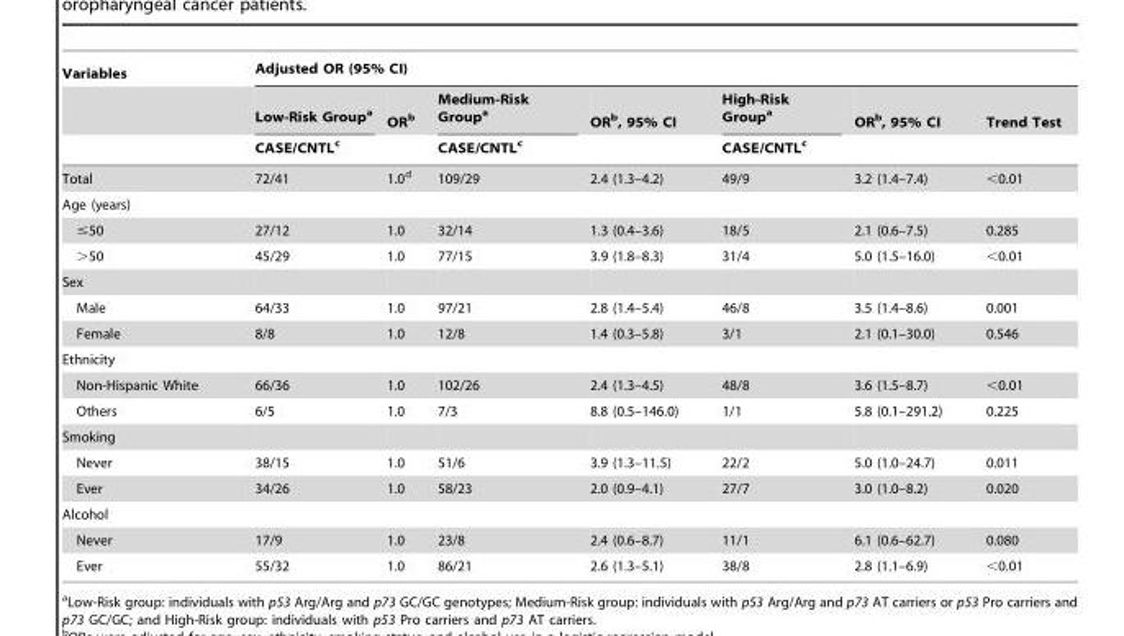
<table><thead><tr><td rowspan="3">Variables</td><td colspan="7">Adjusted OR (95% CI)</td></tr><tr><td rowspan="2">Low-Risk Group<sup>a</sup> CASE/CNTL<sup>c</sup></td><td rowspan="2">OR<sup>b</sup></td><td rowspan="2">Medium-Risk Group<sup>a</sup> CASE/CNTL<sup>c</sup></td><td rowspan="2">OR<sup>b</sup>, 95% CI</td><td rowspan="2">High-Risk Group<sup>a</sup> CASE/CNTL<sup>c</sup></td><td rowspan="2">OR<sup>b</sup>, 95% CI</td><td rowspan="2">Trend Test</td></tr><tr></tr></thead><tbody><tr><td>Total</td><td>72/41</td><td>1.0<sup>d</sup></td><td>109/29</td><td>2.4 (1.3–4.2)</td><td>49/9</td><td>3.2 (1.4–7.4)</td><td>&lt;0.01</td></tr><tr><td colspan="8">Age (years)</td></tr><tr><td>≤50</td><td>27/12</td><td>1.0</td><td>32/14</td><td>1.3 (0.4–3.6)</td><td>18/5</td><td>2.1 (0.6–7.5)</td><td>0.285</td></tr><tr><td>&gt;50</td><td>45/29</td><td>1.0</td><td>77/15</td><td>3.9 (1.8–8.3)</td><td>31/4</td><td>5.0 (1.5–16.0)</td><td>&lt;0.01</td></tr><tr><td colspan="8">Sex</td></tr><tr><td>Male</td><td>64/33</td><td>1.0</td><td>97/21</td><td>2.8 (1.4–5.4)</td><td>46/8</td><td>3.5 (1.4–8.6)</td><td>0.001</td></tr><tr><td>Female</td><td>8/8</td><td>1.0</td><td>12/8</td><td>1.4 (0.3–5.8)</td><td>3/1</td><td>2.1 (0.1–30.0)</td><td>0.546</td></tr><tr><td colspan="8">Ethnicity</td></tr><tr><td>Non-Hispanic White</td><td>66/36</td><td>1.0</td><td>102/26</td><td>2.4 (1.3–4.5)</td><td>48/8</td><td>3.6 (1.5–8.7)</td><td>&lt;0.01</td></tr><tr><td>Others</td><td>6/5</td><td>1.0</td><td>7/3</td><td>8.8 (0.5–146.0)</td><td>1/1</td><td>5.8 (0.1–291.2)</td><td>0.225</td></tr><tr><td colspan="8">Smoking</td></tr><tr><td>Never</td><td>38/15</td><td>1.0</td><td>51/6</td><td>3.9 (1.3–11.5)</td><td>22/2</td><td>5.0 (1.0–24.7)</td><td>0.011</td></tr><tr><td>Ever</td><td>34/26</td><td>1.0</td><td>58/23</td><td>2.0 (0.9–4.1)</td><td>27/7</td><td>3.0 (1.0–8.2)</td><td>0.020</td></tr><tr><td colspan="8">Alcohol</td></tr><tr><td>Never</td><td>17/9</td><td>1.0</td><td>23/8</td><td>2.4 (0.6–8.7)</td><td>11/1</td><td>6.1 (0.6–62.7)</td><td>0.080</td></tr><tr><td>Ever</td><td>55/32</td><td>1.0</td><td>86/21</td><td>2.6 (1.3–5.1)</td><td>38/8</td><td>2.8 (1.1–6.9)</td><td>&lt;0.01</td></tr></tbody></table>